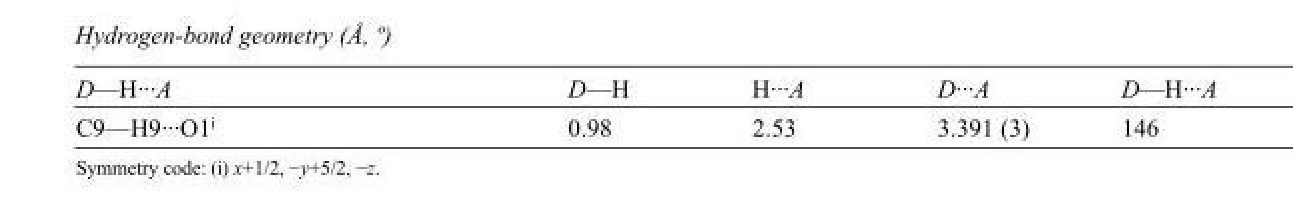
<table><tbody><tr><td>D—H···A</td><td>D—H</td><td>H···A</td><td>D···A</td><td>D—H···A</td></tr><tr><td>C9—H9···O1<sup>i</sup></td><td>0.98</td><td>2.53</td><td>3.391 (3)</td><td>146</td></tr></tbody></table>